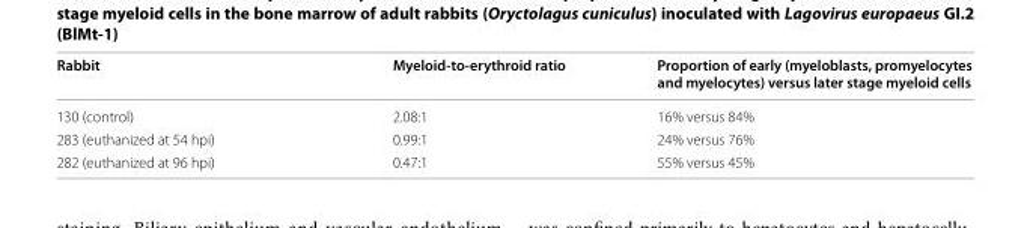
<table><thead><tr><td>Rabbit</td><td>Myeloid-to-erythroid ratio</td><td>Proportion of early (myeloblasts, promyelocytes and myelocytes) versus later stage myeloid cells</td></tr></thead><tbody><tr><td>130 (control)</td><td>2.08:1</td><td>16% versus 84%</td></tr><tr><td>283 (euthanized at 54 hpi)</td><td>0.99:1</td><td>24% versus 76%</td></tr><tr><td>282 (euthanized at 96 hpi)</td><td>0.47:1</td><td>55% versus 45%</td></tr></tbody></table>